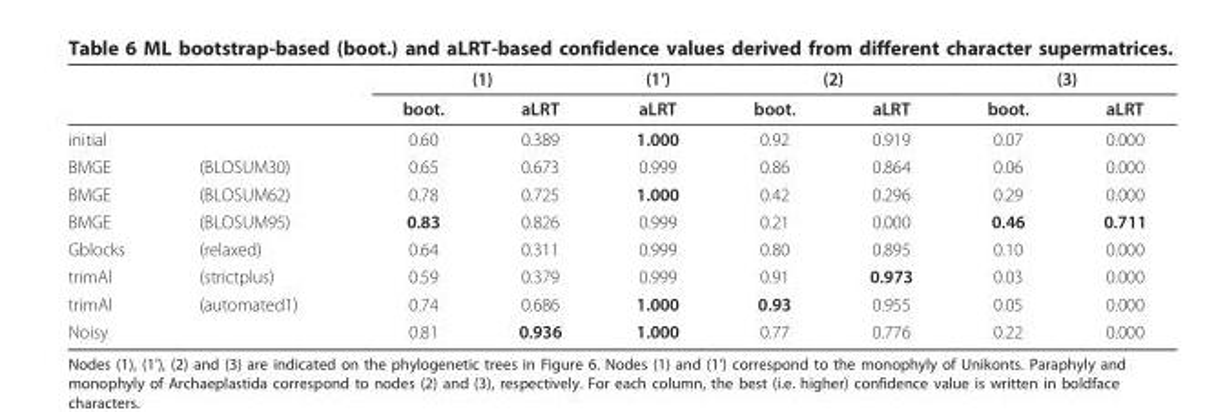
<table><thead><tr><td rowspan="2"></td><td rowspan="2"></td><td colspan="2">(1)</td><td rowspan="2">(1’) aLRT</td><td colspan="2">(2)</td><td colspan="2">(3)</td></tr><tr><td>boot.</td><td>aLRT</td><td>boot.</td><td>aLRT</td><td>boot.</td><td>aLRT</td></tr></thead><tbody><tr><td>initial</td><td></td><td>0.60</td><td>0.389</td><td>1.000</td><td>0.92</td><td>0.919</td><td>0.07</td><td>0.000</td></tr><tr><td>BMGE</td><td>(BLOSUM30)</td><td>0.65</td><td>0.673</td><td>0.999</td><td>0.86</td><td>0.864</td><td>0.06</td><td>0.000</td></tr><tr><td>BMGE</td><td>(BLOSUM62)</td><td>0.78</td><td>0.725</td><td>1.000</td><td>0.42</td><td>0.296</td><td>0.29</td><td>0.000</td></tr><tr><td>BMGE</td><td>(BLOSUM95)</td><td>0.83</td><td>0.826</td><td>0.999</td><td>0.21</td><td>0.000</td><td>0.46</td><td>0.711</td></tr><tr><td>Gblocks</td><td>(relaxed)</td><td>0.64</td><td>0.311</td><td>0.999</td><td>0.80</td><td>0.895</td><td>0.10</td><td>0.000</td></tr><tr><td>trimAl</td><td>(strictplus)</td><td>0.59</td><td>0.379</td><td>0.999</td><td>0.91</td><td>0.973</td><td>0.03</td><td>0.000</td></tr><tr><td>trimAl</td><td>(automated1)</td><td>0.74</td><td>0.686</td><td>1.000</td><td>0.93</td><td>0.955</td><td>0.05</td><td>0.000</td></tr><tr><td>Noisy</td><td></td><td>0.81</td><td>0.936</td><td>1.000</td><td>0.77</td><td>0.776</td><td>0.22</td><td>0.000</td></tr></tbody></table>